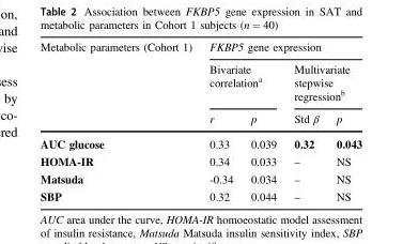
<table><thead><tr><td rowspan="3">Metabolic parameters (Cohort 1)</td><td colspan="4">FKBP5 gene expression</td></tr><tr><td colspan="2">Bivariate correlation<sup>a</sup></td><td colspan="2">Multivariate stepwise regression<sup>b</sup></td></tr><tr><td>r</td><td>p</td><td>Std β</td><td>p</td></tr></thead><tbody><tr><td>AUC glucose</td><td>0.33</td><td>0.039</td><td>0.32</td><td>0.043</td></tr><tr><td>HOMA-IR</td><td>0.34</td><td>0.033</td><td>–</td><td>NS</td></tr><tr><td>Matsuda</td><td>-0.34</td><td>0.034</td><td>–</td><td>NS</td></tr><tr><td>SBP</td><td>0.32</td><td>0.044</td><td>–</td><td>NS</td></tr></tbody></table>